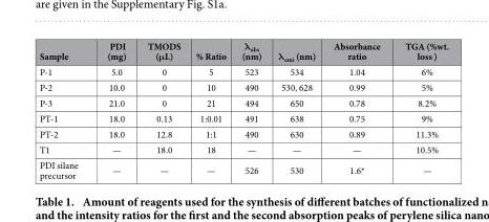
<table><thead><tr><td>Sample</td><td>PDI (mg)</td><td>TMODS (μL)</td><td>% Ratio</td><td>λ<sub>abs</sub> (nm)</td><td>λ<sub>emi</sub> (nm)</td><td>Absorbance ratio</td><td>TGA (%wt. loss )</td></tr></thead><tbody><tr><td>P-1</td><td>5.0</td><td>0</td><td>5</td><td>523</td><td>534</td><td>1.04</td><td>6%</td></tr><tr><td>P-2</td><td>10.0</td><td>0</td><td>10</td><td>490</td><td>530, 628</td><td>0.99</td><td>5%</td></tr><tr><td>P-3</td><td>21.0</td><td>0</td><td>21</td><td>494</td><td>650</td><td>0.78</td><td>8.2%</td></tr><tr><td>PT-1</td><td>18.0</td><td>0.13</td><td>1:0.01</td><td>491</td><td>638</td><td>0.75</td><td>9%</td></tr><tr><td>PT-2</td><td>18.0</td><td>12.8</td><td>1:1</td><td>490</td><td>630</td><td>0.89</td><td>11.3%</td></tr><tr><td>T1</td><td>—</td><td>18.0</td><td>18</td><td>—</td><td>—</td><td>—</td><td>10.5%</td></tr><tr><td>PDI silane precursor</td><td>—</td><td>—</td><td>—</td><td>526</td><td>530</td><td>1.6*</td><td>—</td></tr></tbody></table>